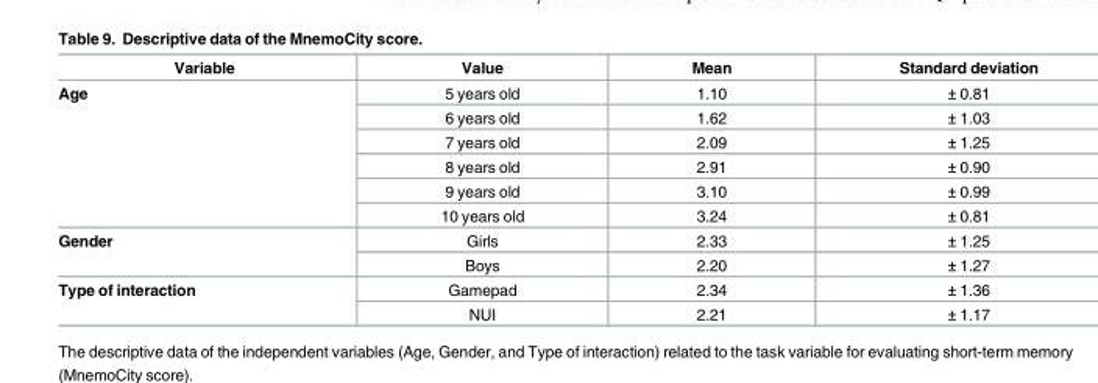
<table><thead><tr><td>Variable</td><td>Value</td><td>Mean</td><td>Standard deviation</td></tr></thead><tbody><tr><td rowspan="6">Age</td><td>5 years old</td><td>1.10</td><td>± 0.81</td></tr><tr><td>6 years old</td><td>1.62</td><td>± 1.03</td></tr><tr><td>7 years old</td><td>2.09</td><td>± 1.25</td></tr><tr><td>8 years old</td><td>2.91</td><td>± 0.90</td></tr><tr><td>9 years old</td><td>3.10</td><td>± 0.99</td></tr><tr><td>10 years old</td><td>3.24</td><td>± 0.81</td></tr><tr><td rowspan="2">Gender</td><td>Girls</td><td>2.33</td><td>± 1.25</td></tr><tr><td>Boys</td><td>2.20</td><td>± 1.27</td></tr><tr><td rowspan="2">Type of interaction</td><td>Gamepad</td><td>2.34</td><td>± 1.36</td></tr><tr><td>NUI</td><td>2.21</td><td>± 1.17</td></tr></tbody></table>